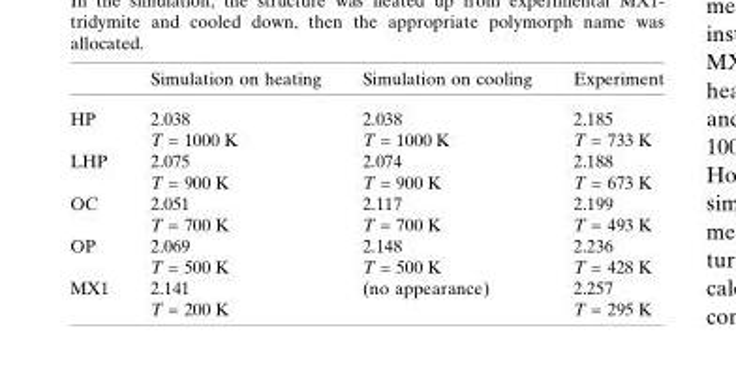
<table><thead><tr><td></td><td>Simulation on heating</td><td>Simulation on cooling</td><td>Experiment</td></tr></thead><tbody><tr><td rowspan="2">HP</td><td>2.038</td><td>2.038</td><td>2.185</td></tr><tr><td>T = 1000 K</td><td>T = 1000 K</td><td>T = 733 K</td></tr><tr><td rowspan="2">LHP</td><td>2.075</td><td>2.074</td><td>2.188</td></tr><tr><td>T = 900 K</td><td>T = 900 K</td><td>T = 673 K</td></tr><tr><td rowspan="2">OC</td><td>2.051</td><td>2.117</td><td>2.199</td></tr><tr><td>T = 700 K</td><td>T = 700 K</td><td>T = 493 K</td></tr><tr><td rowspan="2">OP</td><td>2.069</td><td>2.148</td><td>2.236</td></tr><tr><td>T = 500 K</td><td>T = 500 K</td><td>T = 428 K</td></tr><tr><td rowspan="2">MX1</td><td>2.141</td><td>(no appearance)</td><td>2.257</td></tr><tr><td>T = 200 K</td><td></td><td>T = 295 K</td></tr></tbody></table>